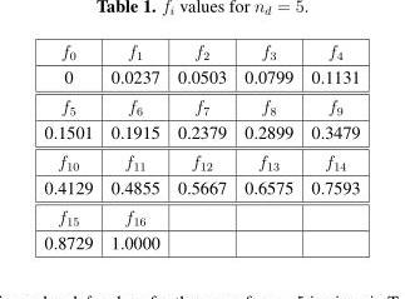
<table><tbody><tr><td>f<sub>0</sub></td><td>f<sub>1</sub></td><td>f<sub>2</sub></td><td>f<sub>3</sub></td><td>f<sub>4</sub></td></tr><tr><td>0</td><td>0.0237</td><td>0.0503</td><td>0.0799</td><td>0.1131</td></tr><tr><td>f<sub>5</sub></td><td>f<sub>6</sub></td><td>f<sub>7</sub></td><td>f<sub>8</sub></td><td>f<sub>9</sub></td></tr><tr><td>0.1501</td><td>0.1915</td><td>0.2379</td><td>0.2899</td><td>0.3479</td></tr><tr><td>f<sub>10</sub></td><td>f<sub>11</sub></td><td>f<sub>12</sub></td><td>f<sub>13</sub></td><td>f<sub>14</sub></td></tr><tr><td>0.4129</td><td>0.4855</td><td>0.5667</td><td>0.6575</td><td>0.7593</td></tr><tr><td>f<sub>15</sub></td><td>f<sub>16</sub></td><td></td><td></td><td></td></tr><tr><td>0.8729</td><td>1.0000</td><td></td><td></td><td></td></tr></tbody></table>